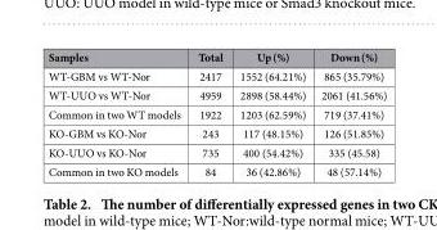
<table><thead><tr><td>Samples</td><td>Total</td><td>Up (%)</td><td>Down (%)</td></tr></thead><tbody><tr><td>WT-GBM vs WT-Nor</td><td>2417</td><td>1552 (64.21%)</td><td>865 (35.79%)</td></tr><tr><td>WT-UUO vs WT-Nor</td><td>4959</td><td>2898 (58.44%)</td><td>2061 (41.56%)</td></tr><tr><td>Common in two WT models</td><td>1922</td><td>1203 (62.59%)</td><td>719 (37.41%)</td></tr><tr><td>KO-GBM vs KO-Nor</td><td>243</td><td>117 (48.15%)</td><td>126 (51.85%)</td></tr><tr><td>KO-UUO vs KO-Nor</td><td>735</td><td>400 (54.42%)</td><td>335 (45.58)</td></tr><tr><td>Common in two KO models</td><td>84</td><td>36 (42.86%)</td><td>48 (57.14%)</td></tr></tbody></table>